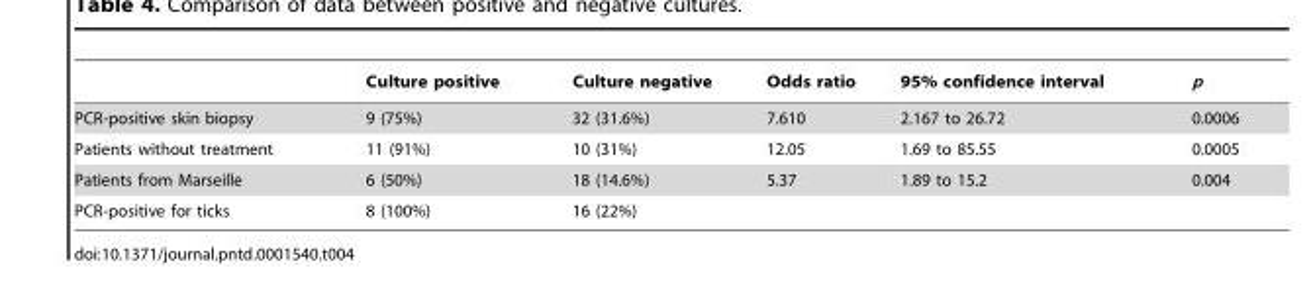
<table><thead><tr><td></td><td>Culture positive</td><td>Culture negative</td><td>Odds ratio</td><td>95% confidence interval</td><td>p</td></tr></thead><tbody><tr><td>PCR-positive skin biopsy</td><td>9 (75%)</td><td>32 (31.6%)</td><td>7.610</td><td>2.167 to 26.72</td><td>0.0006</td></tr><tr><td>Patients without treatment</td><td>11 (91%)</td><td>10 (31%)</td><td>12.05</td><td>1.69 to 85.55</td><td>0.0005</td></tr><tr><td>Patients from Marseille</td><td>6 (50%)</td><td>18 (14.6%)</td><td>5.37</td><td>1.89 to 15.2</td><td>0.004</td></tr><tr><td>PCR-positive for ticks</td><td>8 (100%)</td><td>16 (22%)</td><td></td><td></td><td></td></tr></tbody></table>